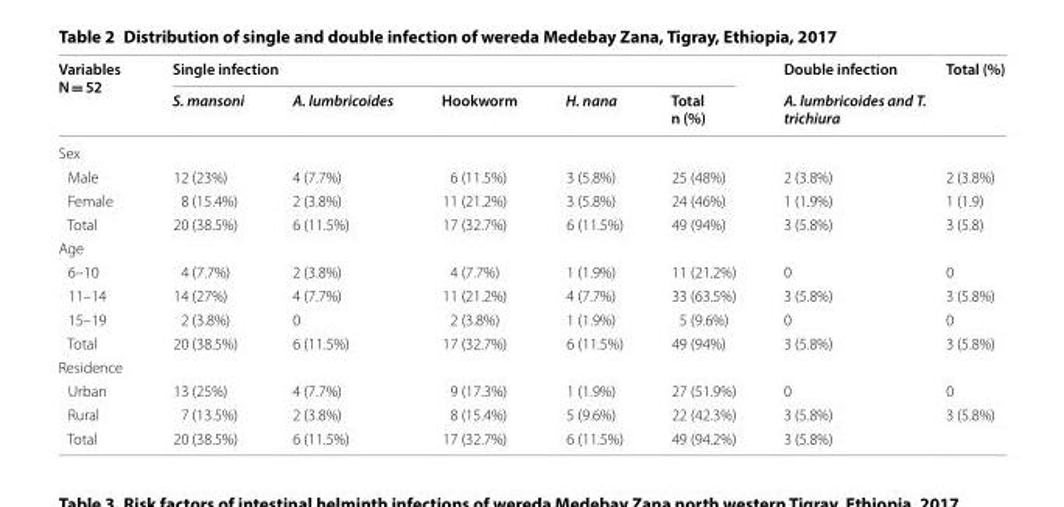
<table><thead><tr><td rowspan="2">Variables N = 52</td><td colspan="5">Single infection</td><td rowspan="2">Double infection A. lumbricoides and T. trichiura</td><td rowspan="2">Total (%)</td></tr><tr><td>S. mansoni</td><td>A. lumbricoides</td><td>Hookworm</td><td>H. nana</td><td>Total n (%)</td></tr></thead><tbody><tr><td colspan="8">Sex</td></tr><tr><td>Male</td><td>12 (23%)</td><td>4 (7.7%)</td><td>6 (11.5%)</td><td>3 (5.8%)</td><td>25 (48%)</td><td>2 (3.8%)</td><td>2 (3.8%)</td></tr><tr><td>Female</td><td>8 (15.4%)</td><td>2 (3.8%)</td><td>11 (21.2%)</td><td>3 (5.8%)</td><td>24 (46%)</td><td>1 (1.9%)</td><td>1 (1.9)</td></tr><tr><td>Total</td><td>20 (38.5%)</td><td>6 (11.5%)</td><td>17 (32.7%)</td><td>6 (11.5%)</td><td>49 (94%)</td><td>3 (5.8%)</td><td>3 (5.8)</td></tr><tr><td colspan="8">Age</td></tr><tr><td>6–10</td><td>4 (7.7%)</td><td>2 (3.8%)</td><td>4 (7.7%)</td><td>1 (1.9%)</td><td>11 (21.2%)</td><td>0</td><td>0</td></tr><tr><td>11–14</td><td>14 (27%)</td><td>4 (7.7%)</td><td>11 (21.2%)</td><td>4 (7.7%)</td><td>33 (63.5%)</td><td>3 (5.8%)</td><td>3 (5.8%)</td></tr><tr><td>15–19</td><td>2 (3.8%)</td><td>0</td><td>2 (3.8%)</td><td>1 (1.9%)</td><td>5 (9.6%)</td><td>0</td><td>0</td></tr><tr><td>Total</td><td>20 (38.5%)</td><td>6 (11.5%)</td><td>17 (32.7%)</td><td>6 (11.5%)</td><td>49 (94%)</td><td>3 (5.8%)</td><td>3 (5.8%)</td></tr><tr><td colspan="8">Residence</td></tr><tr><td>Urban</td><td>13 (25%)</td><td>4 (7.7%)</td><td>9 (17.3%)</td><td>1 (1.9%)</td><td>27 (51.9%)</td><td>0</td><td>0</td></tr><tr><td>Rural</td><td>7 (13.5%)</td><td>2 (3.8%)</td><td>8 (15.4%)</td><td>5 (9.6%)</td><td>22 (42.3%)</td><td>3 (5.8%)</td><td>3 (5.8%)</td></tr><tr><td>Total</td><td>20 (38.5%)</td><td>6 (11.5%)</td><td>17 (32.7%)</td><td>6 (11.5%)</td><td>49 (94.2%)</td><td>3 (5.8%)</td><td></td></tr></tbody></table>